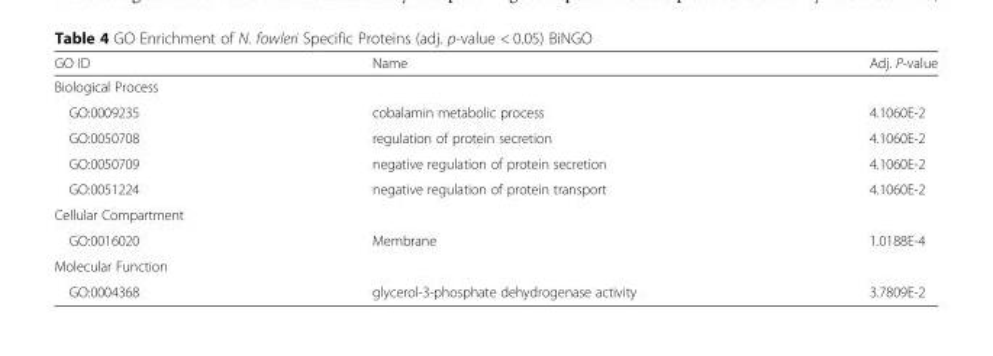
<table><thead><tr><td>GO ID</td><td>Name</td><td>Adj. P-value</td></tr></thead><tbody><tr><td colspan="3">Biological Process</td></tr><tr><td>GO:0009235</td><td>cobalamin metabolic process</td><td>4.1060E-2</td></tr><tr><td>GO:0050708</td><td>regulation of protein secretion</td><td>4.1060E-2</td></tr><tr><td>GO:0050709</td><td>negative regulation of protein secretion</td><td>4.1060E-2</td></tr><tr><td>GO:0051224</td><td>negative regulation of protein transport</td><td>4.1060E-2</td></tr><tr><td colspan="3">Cellular Compartment</td></tr><tr><td>GO:0016020</td><td>Membrane</td><td>1.0188E-4</td></tr><tr><td colspan="3">Molecular Function</td></tr><tr><td>GO:0004368</td><td>glycerol-3-phosphate dehydrogenase activity</td><td>3.7809E-2</td></tr></tbody></table>